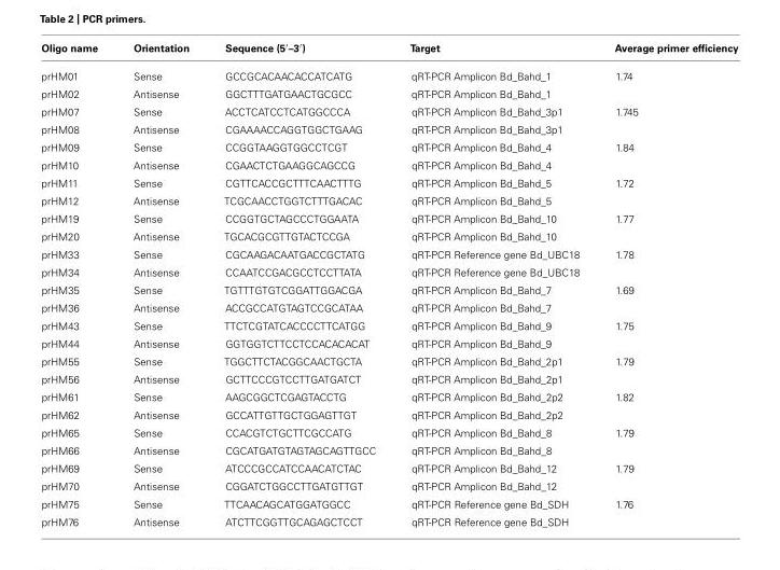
<table><thead><tr><td>Oligo name</td><td>Orientation</td><td>Sequence (5′–3′)</td><td>Target</td><td>Average primer efficiency</td></tr></thead><tbody><tr><td>prHM01</td><td>Sense</td><td>GCCGCACAACACCATCATG</td><td>qRT-PCR Amplicon Bd_Bahd_1</td><td>1.74</td></tr><tr><td>prHM02</td><td>Antisense</td><td>GGCTTTGATGAACTGCGCC</td><td>qRT-PCR Amplicon Bd_Bahd_1</td><td></td></tr><tr><td>prHM07</td><td>Sense</td><td>ACCTCATCCTCATGGCCCA</td><td>qRT-PCR Amplicon Bd_Bahd_3p1</td><td>1.745</td></tr><tr><td>prHM08</td><td>Antisense</td><td>CGAAAACCAGGTGGCTGAAG</td><td>qRT-PCR Amplicon Bd_Bahd_3p1</td><td></td></tr><tr><td>prHM09</td><td>Sense</td><td>CCGGTAAGGTGGCCTCGT</td><td>qRT-PCR Amplicon Bd_Bahd_4</td><td>1.84</td></tr><tr><td>prHM10</td><td>Antisense</td><td>CGAACTCTGAAGGCAGCCG</td><td>qRT-PCR Amplicon Bd_Bahd_4</td><td></td></tr><tr><td>prHM11</td><td>Sense</td><td>CGTTCACCGCTTTCAACTTTG</td><td>qRT-PCR Amplicon Bd_Bahd_5</td><td>1.72</td></tr><tr><td>prHM12</td><td>Antisense</td><td>TCGCAACCTGGTCTTTGACAC</td><td>qRT-PCR Amplicon Bd_Bahd_5</td><td></td></tr><tr><td>prHM19</td><td>Sense</td><td>CCGGTGCTAGCCCTGGAATA</td><td>qRT-PCR Amplicon Bd_Bahd_10</td><td>1.77</td></tr><tr><td>prHM20</td><td>Antisense</td><td>TGCACGCGTTGTACTCCGA</td><td>qRT-PCR Amplicon Bd_Bahd_10</td><td></td></tr><tr><td>prHM33</td><td>Sense</td><td>CGCAAGACAATGACCGCTATG</td><td>qRT-PCR Reference gene Bd_UBC18</td><td>1.78</td></tr><tr><td>prHM34</td><td>Antisense</td><td>CCAATCCGACGCCTCCTTATA</td><td>qRT-PCR Reference gene Bd_UBC18</td><td></td></tr><tr><td>prHM35</td><td>Sense</td><td>TGTTTGTGTCGGATTGGACGA</td><td>qRT-PCR Amplicon Bd_Bahd_7</td><td>1.69</td></tr><tr><td>prHM36</td><td>Antisense</td><td>ACCGCCATGTAGTCCGCATAA</td><td>qRT-PCR Amplicon Bd_Bahd_7</td><td></td></tr><tr><td>prHM43</td><td>Sense</td><td>TTCTCGTATCACCCCTTCATGG</td><td>qRT-PCR Amplicon Bd_Bahd_9</td><td>1.75</td></tr><tr><td>prHM44</td><td>Antisense</td><td>GGTGGTCTTCCTCCACACACAT</td><td>qRT-PCR Amplicon Bd_Bahd_9</td><td></td></tr><tr><td>prHM55</td><td>Sense</td><td>TGGCTTCTACGGCAACTGCTA</td><td>qRT-PCR Amplicon Bd_Bahd_2p1</td><td>1.79</td></tr><tr><td>prHM56</td><td>Antisense</td><td>GCTTCCCGTCCTTGATGATCT</td><td>qRT-PCR Amplicon Bd_Bahd_2p1</td><td></td></tr><tr><td>prHM61</td><td>Sense</td><td>AAGCGGCTCGAGTACCTG</td><td>qRT-PCR Amplicon Bd_Bahd_2p2</td><td>1.82</td></tr><tr><td>prHM62</td><td>Antisense</td><td>GCCATTGTTGCTGGAGTTGT</td><td>qRT-PCR Amplicon Bd_Bahd_2p2</td><td></td></tr><tr><td>prHM65</td><td>Sense</td><td>CCACGTCTGCTTCGCCATG</td><td>qRT-PCR Amplicon Bd_Bahd_8</td><td>1.79</td></tr><tr><td>prHM66</td><td>Antisense</td><td>CGCATGATGTAGTAGCAGTTGCC</td><td>qRT-PCR Amplicon Bd_Bahd_8</td><td></td></tr><tr><td>prHM69</td><td>Sense</td><td>ATCCCGCCATCCAACATCTAC</td><td>qRT-PCR Amplicon Bd_Bahd_12</td><td>1.79</td></tr><tr><td>prHM70</td><td>Antisense</td><td>CGGATCTGGCCTTGATGTTGT</td><td>qRT-PCR Amplicon Bd_Bahd_12</td><td></td></tr><tr><td>prHM75</td><td>Sense</td><td>TTCAACAGCATGGATGGCC</td><td>qRT-PCR Reference gene Bd_SDH</td><td>1.76</td></tr><tr><td>prHM76</td><td>Antisense</td><td>ATCTTCGGTTGCAGAGCTCCT</td><td>qRT-PCR Reference gene Bd_SDH</td><td></td></tr></tbody></table>